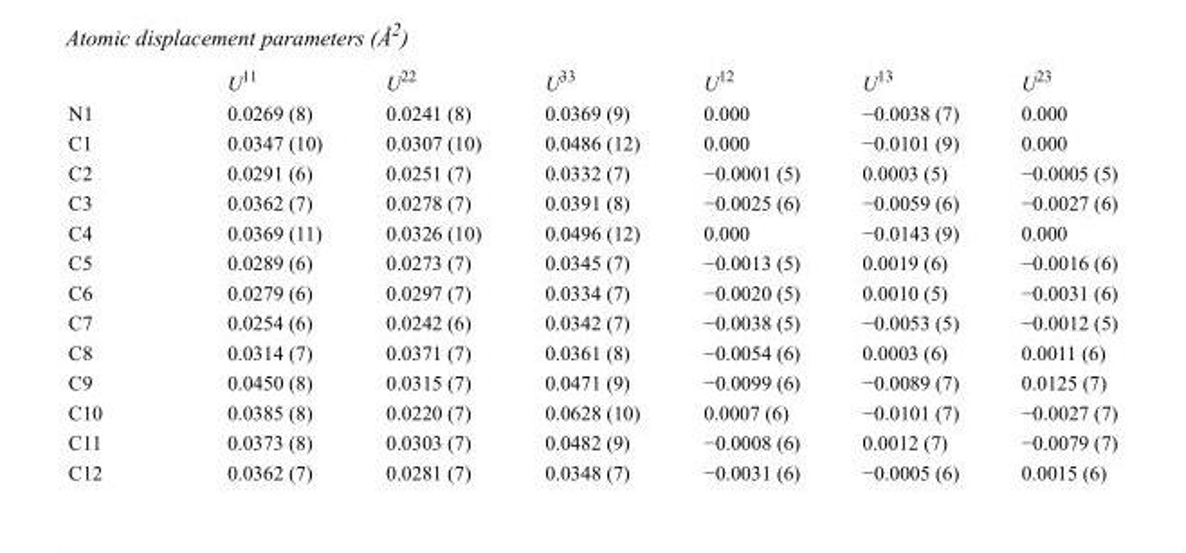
<table><thead><tr><td></td><td>U<sup>11</sup></td><td>U<sup>22</sup></td><td>U<sup>33</sup></td><td>U<sup>12</sup></td><td>U<sup>13</sup></td><td>U<sup>23</sup></td></tr></thead><tbody><tr><td>N1</td><td>0.0269 (8)</td><td>0.0241 (8)</td><td>0.0369 (9)</td><td>0.000</td><td>−0.0038 (7)</td><td>0.000</td></tr><tr><td>C1</td><td>0.0347 (10)</td><td>0.0307 (10)</td><td>0.0486 (12)</td><td>0.000</td><td>−0.0101 (9)</td><td>0.000</td></tr><tr><td>C2</td><td>0.0291 (6)</td><td>0.0251 (7)</td><td>0.0332 (7)</td><td>−0.0001 (5)</td><td>0.0003 (5)</td><td>−0.0005 (5)</td></tr><tr><td>C3</td><td>0.0362 (7)</td><td>0.0278 (7)</td><td>0.0391 (8)</td><td>−0.0025 (6)</td><td>−0.0059 (6)</td><td>−0.0027 (6)</td></tr><tr><td>C4</td><td>0.0369 (11)</td><td>0.0326 (10)</td><td>0.0496 (12)</td><td>0.000</td><td>−0.0143 (9)</td><td>0.000</td></tr><tr><td>C5</td><td>0.0289 (6)</td><td>0.0273 (7)</td><td>0.0345 (7)</td><td>−0.0013 (5)</td><td>0.0019 (6)</td><td>−0.0016 (6)</td></tr><tr><td>C6</td><td>0.0279 (6)</td><td>0.0297 (7)</td><td>0.0334 (7)</td><td>−0.0020 (5)</td><td>0.0010 (5)</td><td>−0.0031 (6)</td></tr><tr><td>C7</td><td>0.0254 (6)</td><td>0.0242 (6)</td><td>0.0342 (7)</td><td>−0.0038 (5)</td><td>−0.0053 (5)</td><td>−0.0012 (5)</td></tr><tr><td>C8</td><td>0.0314 (7)</td><td>0.0371 (7)</td><td>0.0361 (8)</td><td>−0.0054 (6)</td><td>0.0003 (6)</td><td>0.0011 (6)</td></tr><tr><td>C9</td><td>0.0450 (8)</td><td>0.0315 (7)</td><td>0.0471 (9)</td><td>−0.0099 (6)</td><td>−0.0089 (7)</td><td>0.0125 (7)</td></tr><tr><td>C10</td><td>0.0385 (8)</td><td>0.0220 (7)</td><td>0.0628 (10)</td><td>0.0007 (6)</td><td>−0.0101 (7)</td><td>−0.0027 (7)</td></tr><tr><td>C11</td><td>0.0373 (8)</td><td>0.0303 (7)</td><td>0.0482 (9)</td><td>−0.0008 (6)</td><td>0.0012 (7)</td><td>−0.0079 (7)</td></tr><tr><td>C12</td><td>0.0362 (7)</td><td>0.0281 (7)</td><td>0.0348 (7)</td><td>−0.0031 (6)</td><td>−0.0005 (6)</td><td>0.0015 (6)</td></tr></tbody></table>